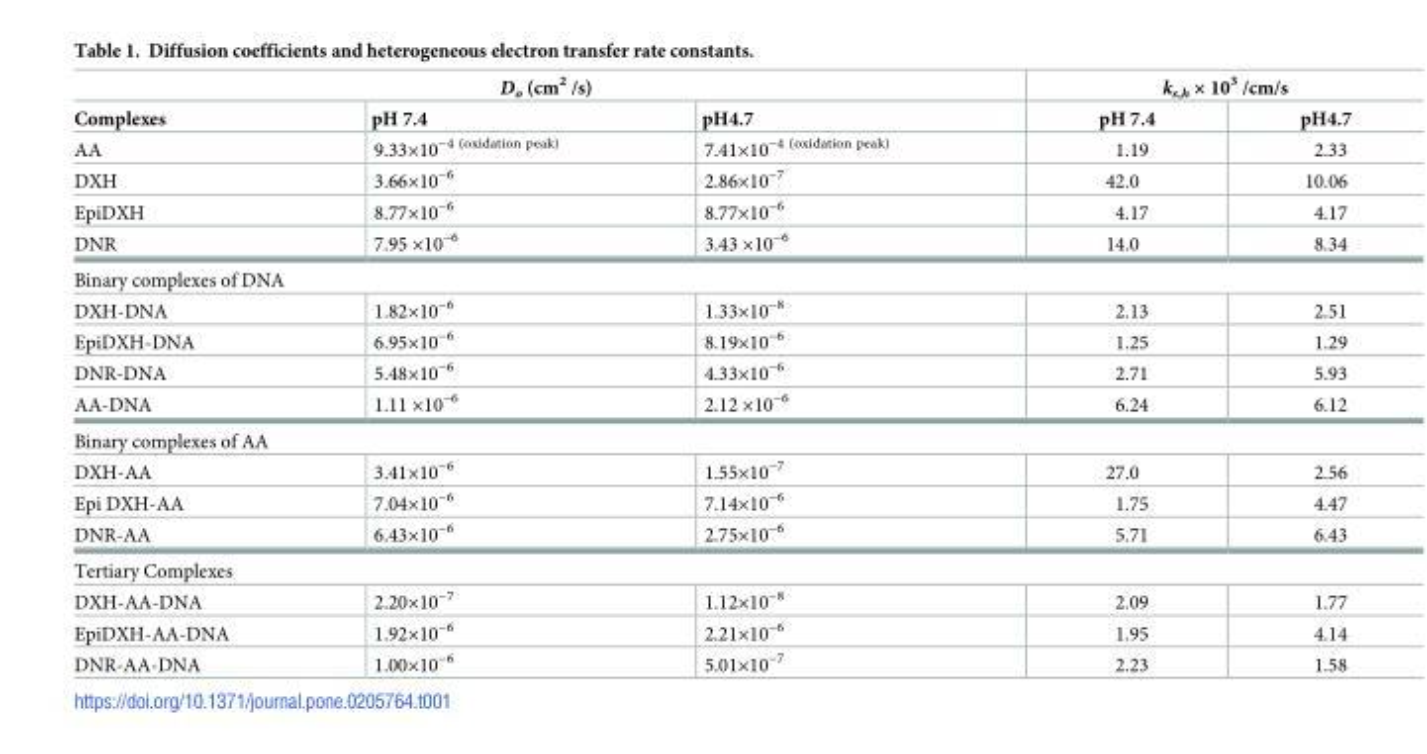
<table><thead><tr><td colspan="3">D<sub>o</sub> (cm<sup>2</sup> /s)</td><td colspan="2">k<sub>s,h</sub> × 10<sup>3</sup> /cm/s</td></tr><tr><td>Complexes</td><td>pH 7.4</td><td>pH4.7</td><td>pH 7.4</td><td>pH4.7</td></tr></thead><tbody><tr><td>AA</td><td>9.33×10<sup>−4 (oxidation peak)</sup></td><td>7.41×10<sup>−4 (oxidation peak)</sup></td><td>1.19</td><td>2.33</td></tr><tr><td>DXH</td><td>3.66×10<sup>−6</sup></td><td>2.86×10<sup>−7</sup></td><td>42.0</td><td>10.06</td></tr><tr><td>EpiDXH</td><td>8.77×10<sup>−6</sup></td><td>8.77×10<sup>−6</sup></td><td>4.17</td><td>4.17</td></tr><tr><td>DNR</td><td>7.95 ×10<sup>−6</sup></td><td>3.43 ×10<sup>−6</sup></td><td>14.0</td><td>8.34</td></tr><tr><td colspan="5">Binary complexes of DNA</td></tr><tr><td>DXH-DNA</td><td>1.82×10<sup>−6</sup></td><td>1.33×10<sup>−8</sup></td><td>2.13</td><td>2.51</td></tr><tr><td>EpiDXH-DNA</td><td>6.95×10<sup>−6</sup></td><td>8.19×10<sup>−6</sup></td><td>1.25</td><td>1.29</td></tr><tr><td>DNR-DNA</td><td>5.48×10<sup>−6</sup></td><td>4.33×10<sup>−6</sup></td><td>2.71</td><td>5.93</td></tr><tr><td>AA-DNA</td><td>1.11 ×10<sup>−6</sup></td><td>2.12 ×10<sup>−6</sup></td><td>6.24</td><td>6.12</td></tr><tr><td colspan="5">Binary complexes of AA</td></tr><tr><td>DXH-AA</td><td>3.41×10<sup>−6</sup></td><td>1.55×10<sup>−7</sup></td><td>27.0</td><td>2.56</td></tr><tr><td>Epi DXH-AA</td><td>7.04×10<sup>−6</sup></td><td>7.14×10<sup>−6</sup></td><td>1.75</td><td>4.47</td></tr><tr><td>DNR-AA</td><td>6.43×10<sup>−6</sup></td><td>2.75×10<sup>−6</sup></td><td>5.71</td><td>6.43</td></tr><tr><td colspan="5">Tertiary Complexes</td></tr><tr><td>DXH-AA-DNA</td><td>2.20×10<sup>−7</sup></td><td>1.12×10<sup>−8</sup></td><td>2.09</td><td>1.77</td></tr><tr><td>EpiDXH-AA-DNA</td><td>1.92×10<sup>−6</sup></td><td>2.21×10<sup>−6</sup></td><td>1.95</td><td>4.14</td></tr><tr><td>DNR-AA-DNA</td><td>1.00×10<sup>−6</sup></td><td>5.01×10<sup>−7</sup></td><td>2.23</td><td>1.58</td></tr></tbody></table>